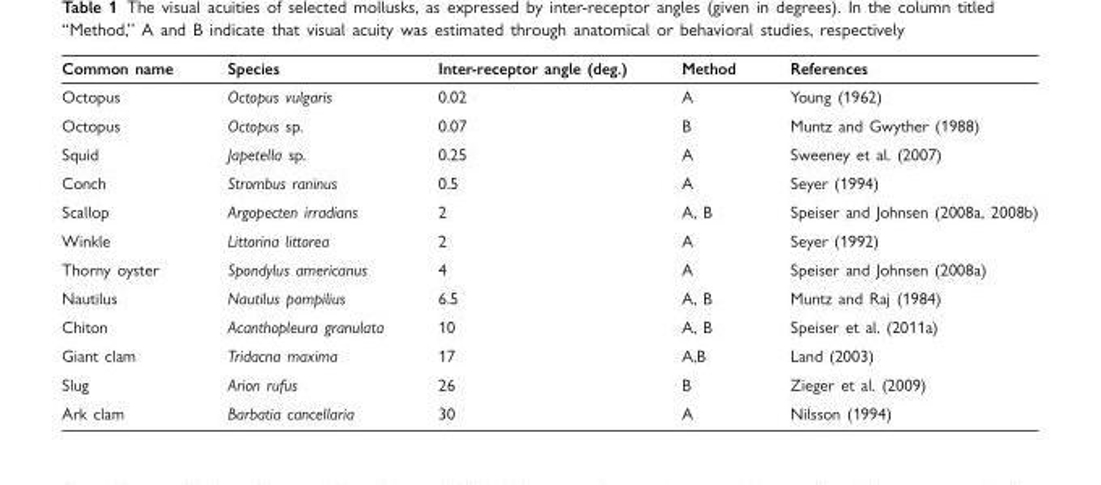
<table><thead><tr><td>Common name</td><td>Species</td><td>Inter-receptor angle (deg.)</td><td>Method</td><td>References</td></tr></thead><tbody><tr><td>Octopus</td><td>Octopus vulgaris</td><td>0.02</td><td>A</td><td>Young (1962)</td></tr><tr><td>Octopus</td><td>Octopus sp.</td><td>0.07</td><td>B</td><td>Muntz and Gwyther (1988)</td></tr><tr><td>Squid</td><td>Japetella sp.</td><td>0.25</td><td>A</td><td>Sweeney et al. (2007)</td></tr><tr><td>Conch</td><td>Strombus raninus</td><td>0.5</td><td>A</td><td>Seyer (1994)</td></tr><tr><td>Scallop</td><td>Argopecten irradians</td><td>2</td><td>A, B</td><td>Speiser and Johnsen (2008a, 2008b)</td></tr><tr><td>Winkle</td><td>Littorina littorea</td><td>2</td><td>A</td><td>Seyer (1992)</td></tr><tr><td>Thorny oyster</td><td>Spondylus americanus</td><td>4</td><td>A</td><td>Speiser and Johnsen (2008a)</td></tr><tr><td>Nautilus</td><td>Nautilus pompilius</td><td>6.5</td><td>A, B</td><td>Muntz and Raj (1984)</td></tr><tr><td>Chiton</td><td>Acanthopleura granulata</td><td>10</td><td>A, B</td><td>Speiser et al. (2011a)</td></tr><tr><td>Giant clam</td><td>Tridacna maxima</td><td>17</td><td>A,B</td><td>Land (2003)</td></tr><tr><td>Slug</td><td>Arion rufus</td><td>26</td><td>B</td><td>Zieger et al. (2009)</td></tr><tr><td>Ark clam</td><td>Barbatia cancellaria</td><td>30</td><td>A</td><td>Nilsson (1994)</td></tr></tbody></table>